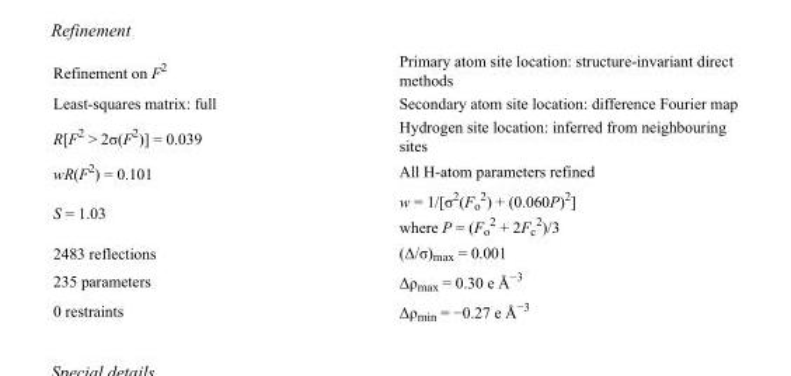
<table><tbody><tr><td>Refinement on F<sup>2</sup></td><td>Primary atom site location: structure-invariant direct methods</td></tr><tr><td>Least-squares matrix: full</td><td>Secondary atom site location: difference Fourier map</td></tr><tr><td>R[F<sup>2</sup> &gt; 2σ(F<sup>2</sup>)] = 0.039</td><td>Hydrogen site location: inferred from neighbouring sites</td></tr><tr><td>wR(F<sup>2</sup>) = 0.101</td><td>All H-atom parameters refined</td></tr><tr><td>S = 1.03</td><td>w = 1/[σ<sup>2</sup>(F<sub>o</sub> <sup>2</sup>) + (0.060P)<sup>2</sup>] where P = (F<sub>o</sub> <sup>2</sup> + 2F<sub>c</sub> <sup>2</sup>)/3</td></tr><tr><td>2483 reflections</td><td>(Δ/σ)<sub>max</sub> = 0.001</td></tr><tr><td>235 parameters</td><td>Δρ<sub>max</sub> = 0.30 e Å<sup>−3</sup></td></tr><tr><td>0 restraints</td><td>Δρ<sub>min</sub> = −0.27 e Å<sup>−3</sup></td></tr></tbody></table>